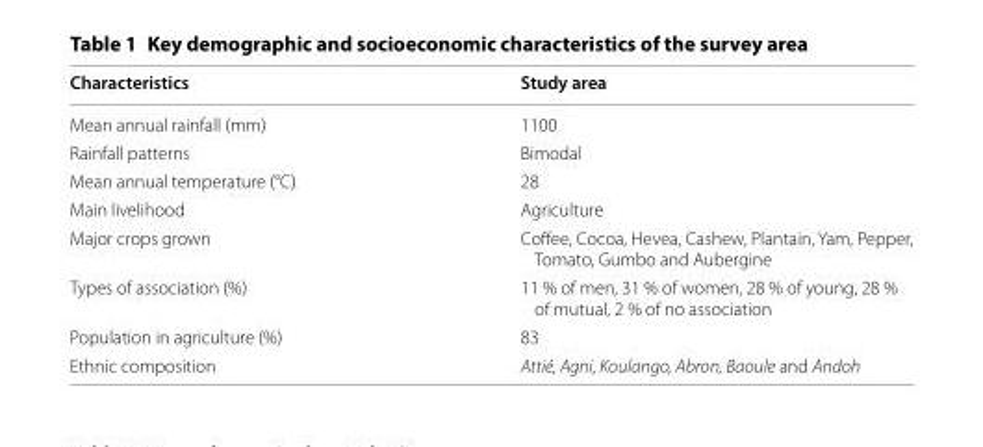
<table><thead><tr><td>Characteristics</td><td>Study area</td></tr></thead><tbody><tr><td>Mean annual rainfall (mm)</td><td>1100</td></tr><tr><td>Rainfall patterns</td><td>Bimodal</td></tr><tr><td>Mean annual temperature (°C)</td><td>28</td></tr><tr><td>Main livelihood</td><td>Agriculture</td></tr><tr><td>Major crops grown</td><td>Coffee, Cocoa, Hevea, Cashew, Plantain, Yam, Pepper, Tomato, Gumbo and Aubergine</td></tr><tr><td>Types of association (%)</td><td>11 % of men, 31 % of women, 28 % of young, 28 % of mutual, 2 % of no association</td></tr><tr><td>Population in agriculture (%)</td><td>83</td></tr><tr><td>Ethnic composition</td><td>Attié, Agni, Koulango, Abron, Baoule and Andoh</td></tr></tbody></table>